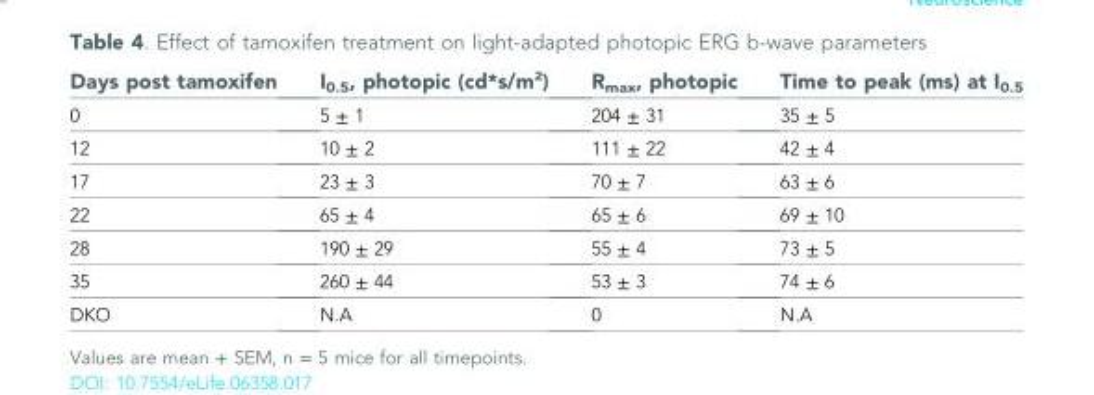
<table><thead><tr><td>Days post tamoxifen</td><td>I<sub>0.5</sub>, photopic (cd*s/m<sup>2</sup>)</td><td>R<sub>max</sub>, photopic</td><td>Time to peak (ms) at I<sub>0.5</sub></td></tr></thead><tbody><tr><td>0</td><td>5 ± 1</td><td>204 ± 31</td><td>35 ± 5</td></tr><tr><td>12</td><td>10 ± 2</td><td>111 ± 22</td><td>42 ± 4</td></tr><tr><td>17</td><td>23 ± 3</td><td>70 ± 7</td><td>63 ± 6</td></tr><tr><td>22</td><td>65 ± 4</td><td>65 ± 6</td><td>69 ± 10</td></tr><tr><td>28</td><td>190 ± 29</td><td>55 ± 4</td><td>73 ± 5</td></tr><tr><td>35</td><td>260 ± 44</td><td>53 ± 3</td><td>74 ± 6</td></tr><tr><td>DKO</td><td>N.A</td><td>0</td><td>N.A</td></tr></tbody></table>